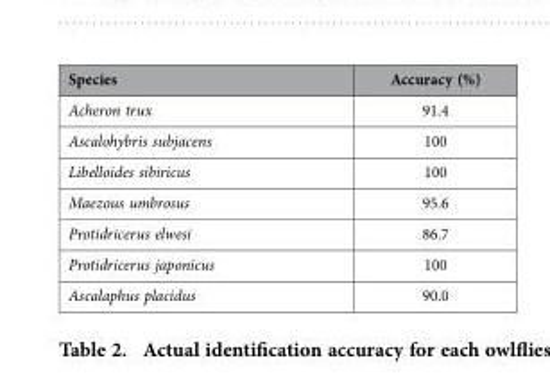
<table><thead><tr><td>Species</td><td>Accuracy (%)</td></tr></thead><tbody><tr><td>Acheron trux</td><td>91.4</td></tr><tr><td>Ascalohybris subjacens</td><td>100</td></tr><tr><td>Libelloides sibiricus</td><td>100</td></tr><tr><td>Maezous umbrosus</td><td>95.6</td></tr><tr><td>Protidricerus elwesi</td><td>86.7</td></tr><tr><td>Protidricerus japonicus</td><td>100</td></tr><tr><td>Ascalaphus placidus</td><td>90.0</td></tr></tbody></table>